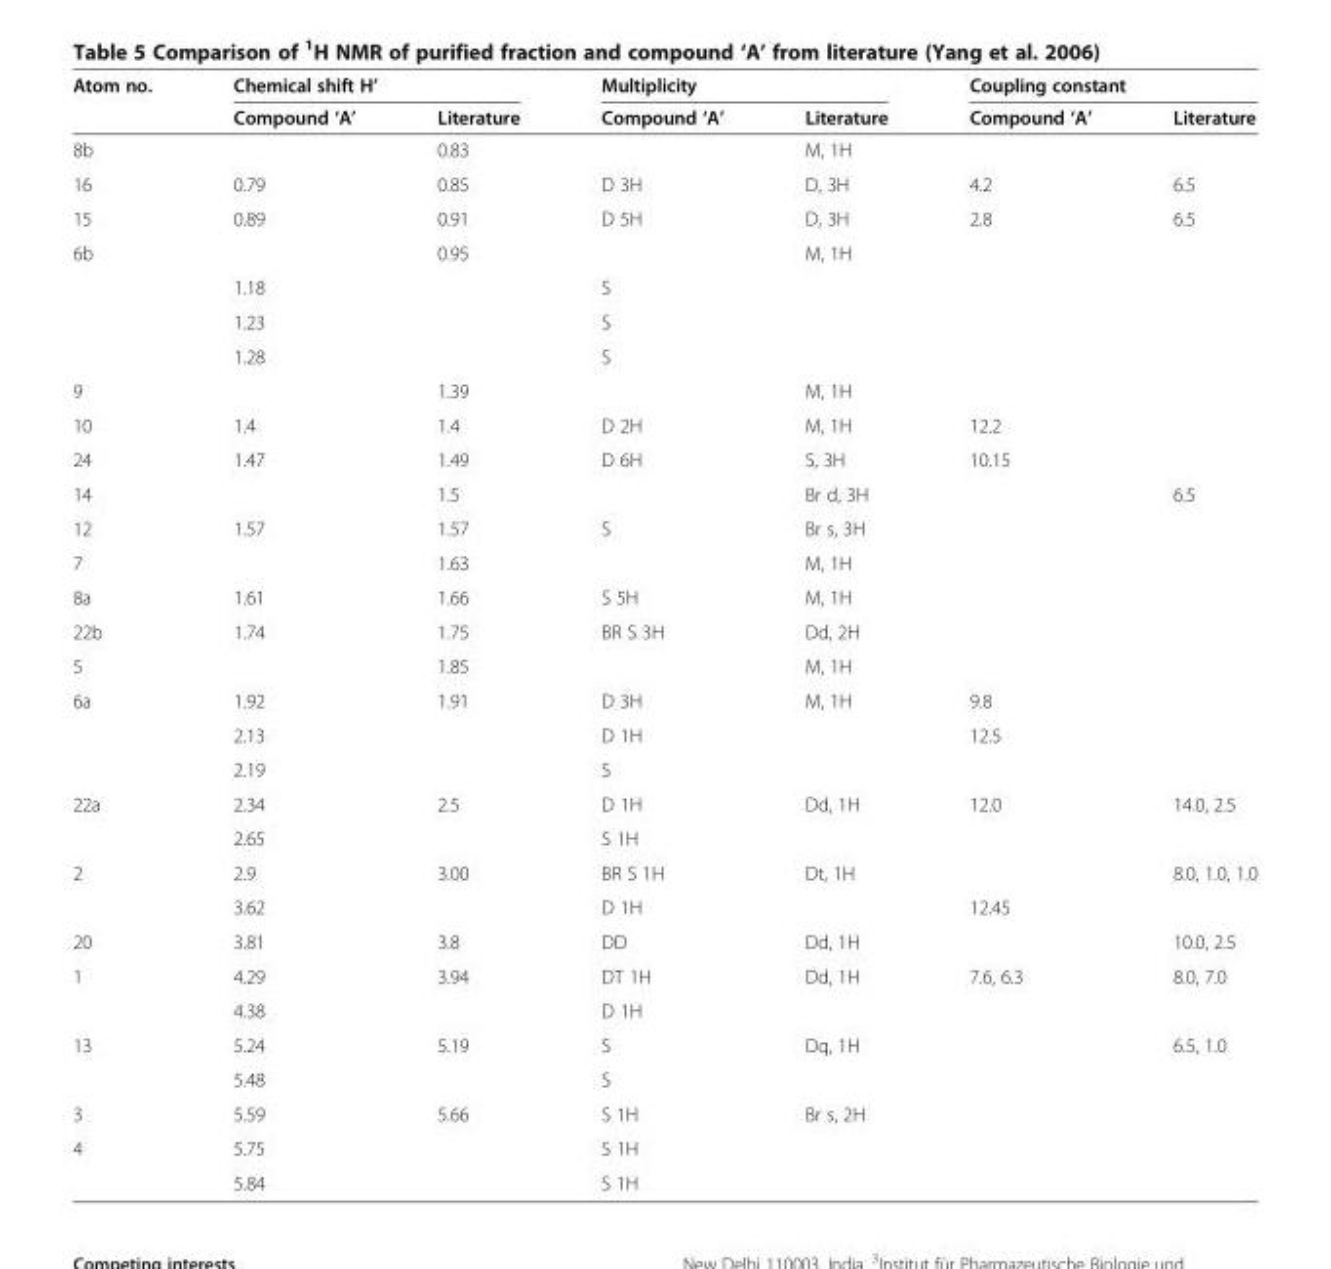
<table><thead><tr><td rowspan="2">Atom no.</td><td colspan="2">Chemical shift H’</td><td colspan="2">Multiplicity</td><td colspan="2">Coupling constant</td></tr><tr><td>Compound ‘A’</td><td>Literature</td><td>Compound ‘A’</td><td>Literature</td><td>Compound ‘A’</td><td>Literature</td></tr></thead><tbody><tr><td>8b</td><td></td><td>0.83</td><td></td><td>M, 1H</td><td></td><td></td></tr><tr><td>16</td><td>0.79</td><td>0.85</td><td>D 3H</td><td>D, 3H</td><td>4.2</td><td>6.5</td></tr><tr><td>15</td><td>0.89</td><td>0.91</td><td>D 5H</td><td>D, 3H</td><td>2.8</td><td>6.5</td></tr><tr><td rowspan="4">6b</td><td></td><td>0.95</td><td></td><td>M, 1H</td><td></td><td></td></tr><tr><td>1.18</td><td></td><td>S</td><td></td><td></td><td></td></tr><tr><td>1.23</td><td></td><td>S</td><td></td><td></td><td></td></tr><tr><td>1.28</td><td></td><td>S</td><td></td><td></td><td></td></tr><tr><td>9</td><td></td><td>1.39</td><td></td><td>M, 1H</td><td></td><td></td></tr><tr><td>10</td><td>1.4</td><td>1.4</td><td>D 2H</td><td>M, 1H</td><td>12.2</td><td></td></tr><tr><td>24</td><td>1.47</td><td>1.49</td><td>D 6H</td><td>S, 3H</td><td>10.15</td><td></td></tr><tr><td>14</td><td></td><td>1.5</td><td></td><td>Br d, 3H</td><td></td><td>6.5</td></tr><tr><td>12</td><td>1.57</td><td>1.57</td><td>S</td><td>Br s, 3H</td><td></td><td></td></tr><tr><td>7</td><td></td><td>1.63</td><td></td><td>M, 1H</td><td></td><td></td></tr><tr><td>8a</td><td>1.61</td><td>1.66</td><td>S 5H</td><td>M, 1H</td><td></td><td></td></tr><tr><td>22b</td><td>1.74</td><td>1.75</td><td>BR S 3H</td><td>Dd, 2H</td><td></td><td></td></tr><tr><td>5</td><td></td><td>1.85</td><td></td><td>M, 1H</td><td></td><td></td></tr><tr><td rowspan="3">6a</td><td>1.92</td><td>1.91</td><td>D 3H</td><td>M, 1H</td><td>9.8</td><td></td></tr><tr><td>2.13</td><td></td><td>D 1H</td><td></td><td>12.5</td><td></td></tr><tr><td>2.19</td><td></td><td>S</td><td></td><td></td><td></td></tr><tr><td rowspan="2">22a</td><td>2.34</td><td>2.5</td><td>D 1H</td><td>Dd, 1H</td><td>12.0</td><td>14.0, 2.5</td></tr><tr><td>2.65</td><td></td><td>S 1H</td><td></td><td></td><td></td></tr><tr><td rowspan="2">2</td><td>2.9</td><td>3.00</td><td>BR S 1H</td><td>Dt, 1H</td><td></td><td>8.0, 1.0, 1.0</td></tr><tr><td>3.62</td><td></td><td>D 1H</td><td></td><td>12.45</td><td></td></tr><tr><td>20</td><td>3.81</td><td>3.8</td><td>DD</td><td>Dd, 1H</td><td></td><td>10.0, 2.5</td></tr><tr><td rowspan="2">1</td><td>4.29</td><td>3.94</td><td>DT 1H</td><td>Dd, 1H</td><td>7.6, 6.3</td><td>8.0, 7.0</td></tr><tr><td>4.38</td><td></td><td>D 1H</td><td></td><td></td><td></td></tr><tr><td rowspan="2">13</td><td>5.24</td><td>5.19</td><td>S</td><td>Dq, 1H</td><td></td><td>6.5, 1.0</td></tr><tr><td>5.48</td><td></td><td>S</td><td></td><td></td><td></td></tr><tr><td>3</td><td>5.59</td><td>5.66</td><td>S 1H</td><td>Br s, 2H</td><td></td><td></td></tr><tr><td rowspan="2">4</td><td>5.75</td><td></td><td>S 1H</td><td></td><td></td><td></td></tr><tr><td>5.84</td><td></td><td>S 1H</td><td></td><td></td><td></td></tr></tbody></table>